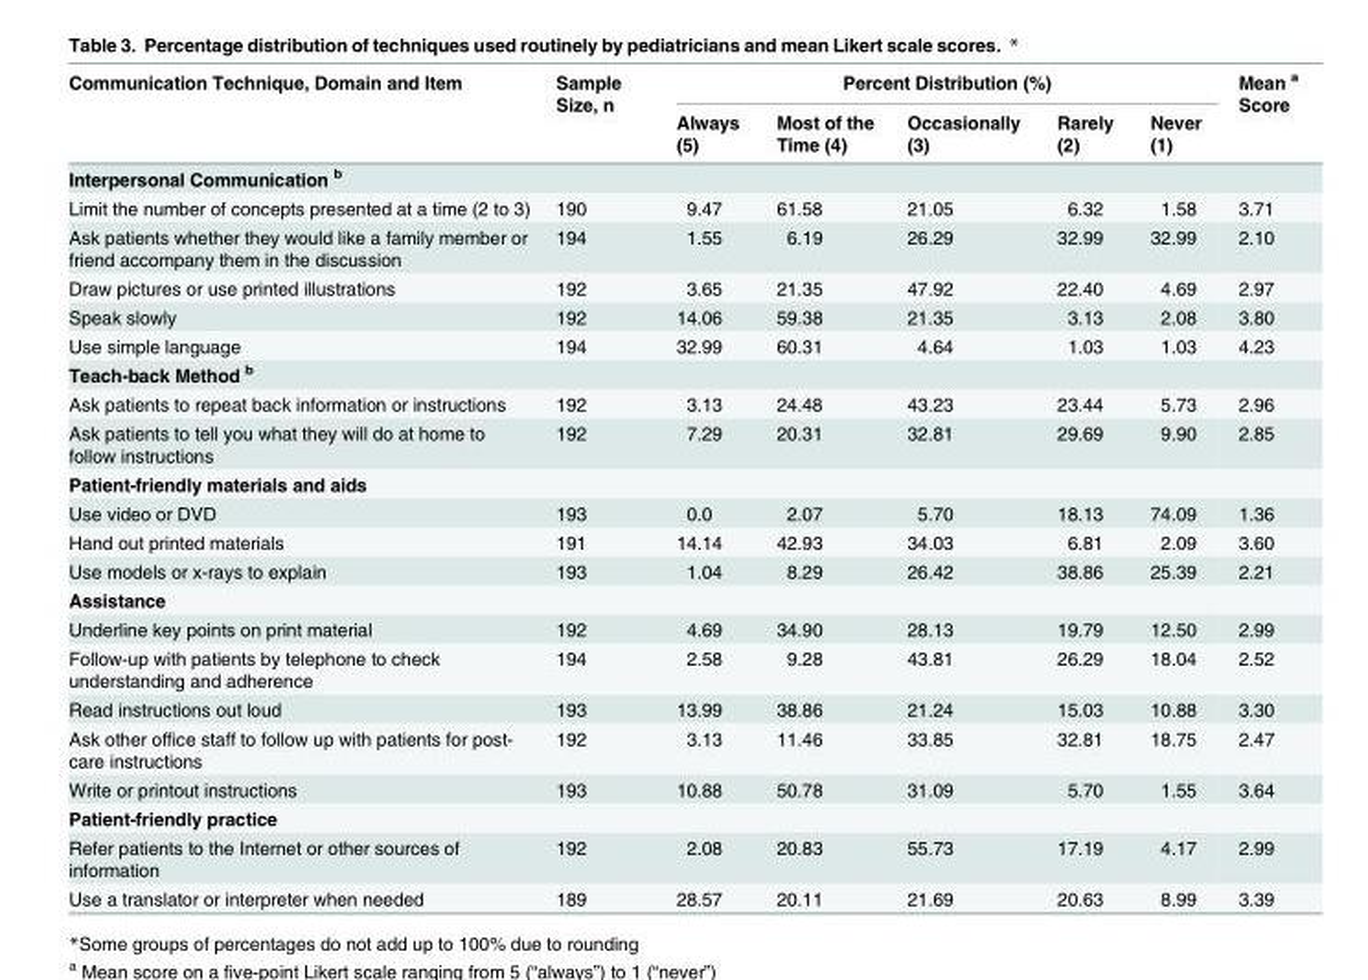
<table><thead><tr><td rowspan="2">Communication Technique, Domain and Item</td><td rowspan="2">Sample Size, n</td><td colspan="5">Percent Distribution (%)</td><td rowspan="2">Mean <sup>a</sup> Score</td></tr><tr><td>Always (5)</td><td>Most of the Time (4)</td><td>Occasionally (3)</td><td>Rarely (2)</td><td>Never (1)</td></tr></thead><tbody><tr><td colspan="8">Interpersonal Communication <sup>b</sup></td></tr><tr><td>Limit the number of concepts presented at a time (2 to 3)</td><td>190</td><td>9.47</td><td>61.58</td><td>21.05</td><td>6.32</td><td>1.58</td><td>3.71</td></tr><tr><td>Ask patients whether they would like a family member or friend accompany them in the discussion</td><td>194</td><td>1.55</td><td>6.19</td><td>26.29</td><td>32.99</td><td>32.99</td><td>2.10</td></tr><tr><td>Draw pictures or use printed illustrations</td><td>192</td><td>3.65</td><td>21.35</td><td>47.92</td><td>22.40</td><td>4.69</td><td>2.97</td></tr><tr><td>Speak slowly</td><td>192</td><td>14.06</td><td>59.38</td><td>21.35</td><td>3.13</td><td>2.08</td><td>3.80</td></tr><tr><td>Use simple language</td><td>194</td><td>32.99</td><td>60.31</td><td>4.64</td><td>1.03</td><td>1.03</td><td>4.23</td></tr><tr><td colspan="8">Teach-back Method <sup>b</sup></td></tr><tr><td>Ask patients to repeat back information or instructions</td><td>192</td><td>3.13</td><td>24.48</td><td>43.23</td><td>23.44</td><td>5.73</td><td>2.96</td></tr><tr><td>Ask patients to tell you what they will do at home to follow instructions</td><td>192</td><td>7.29</td><td>20.31</td><td>32.81</td><td>29.69</td><td>9.90</td><td>2.85</td></tr><tr><td colspan="8">Patient-friendly materials and aids</td></tr><tr><td>Use video or DVD</td><td>193</td><td>0.0</td><td>2.07</td><td>5.70</td><td>18.13</td><td>74.09</td><td>1.36</td></tr><tr><td>Hand out printed materials</td><td>191</td><td>14.14</td><td>42.93</td><td>34.03</td><td>6.81</td><td>2.09</td><td>3.60</td></tr><tr><td>Use models or x-rays to explain</td><td>193</td><td>1.04</td><td>8.29</td><td>26.42</td><td>38.86</td><td>25.39</td><td>2.21</td></tr><tr><td colspan="8">Assistance</td></tr><tr><td>Underline key points on print material</td><td>192</td><td>4.69</td><td>34.90</td><td>28.13</td><td>19.79</td><td>12.50</td><td>2.99</td></tr><tr><td>Follow-up with patients by telephone to check understanding and adherence</td><td>194</td><td>2.58</td><td>9.28</td><td>43.81</td><td>26.29</td><td>18.04</td><td>2.52</td></tr><tr><td>Read instructions out loud</td><td>193</td><td>13.99</td><td>38.86</td><td>21.24</td><td>15.03</td><td>10.88</td><td>3.30</td></tr><tr><td>Ask other office staff to follow up with patients for post- care instructions</td><td>192</td><td>3.13</td><td>11.46</td><td>33.85</td><td>32.81</td><td>18.75</td><td>2.47</td></tr><tr><td>Write or printout instructions</td><td>193</td><td>10.88</td><td>50.78</td><td>31.09</td><td>5.70</td><td>1.55</td><td>3.64</td></tr><tr><td colspan="8">Patient-friendly practice</td></tr><tr><td>Refer patients to the Internet or other sources of information</td><td>192</td><td>2.08</td><td>20.83</td><td>55.73</td><td>17.19</td><td>4.17</td><td>2.99</td></tr><tr><td>Use a translator or interpreter when needed</td><td>189</td><td>28.57</td><td>20.11</td><td>21.69</td><td>20.63</td><td>8.99</td><td>3.39</td></tr></tbody></table>